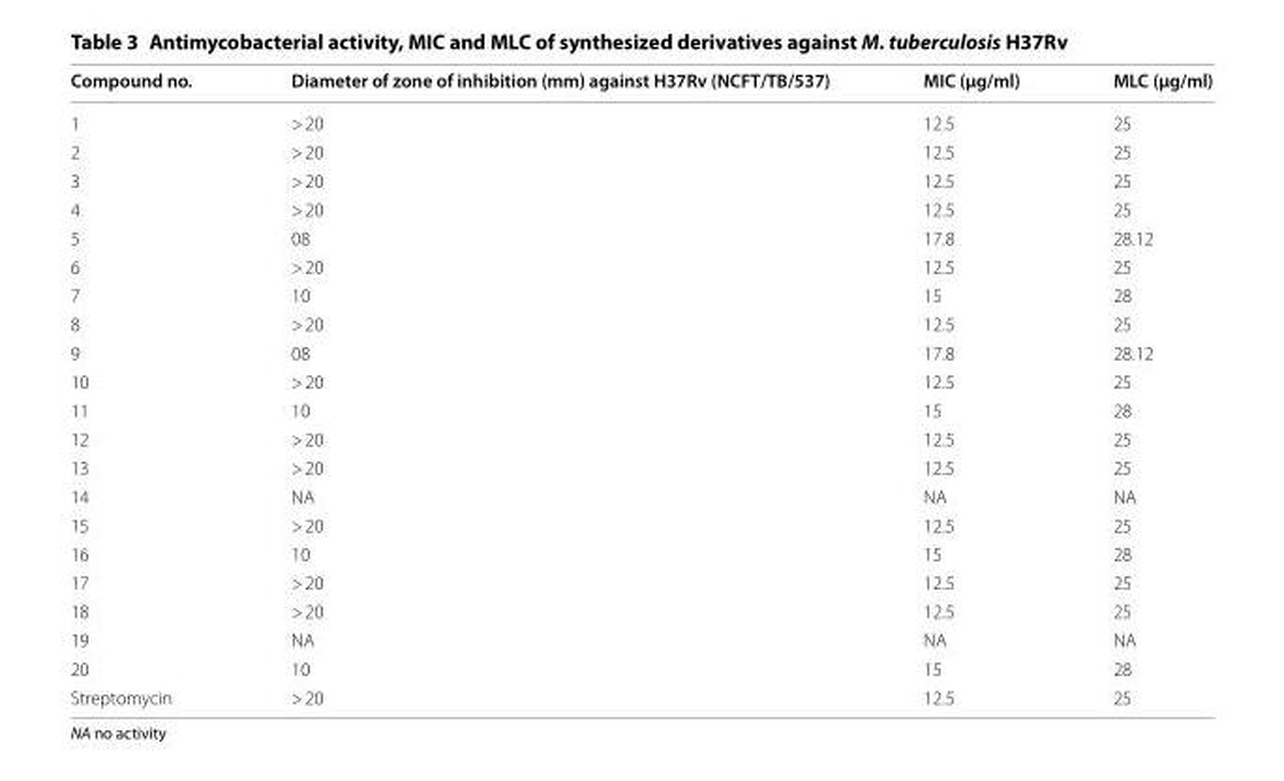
<table><thead><tr><td>Compound no.</td><td>Diameter of zone of inhibition (mm) against H37Rv (NCFT/TB/537)</td><td>MIC (µg/ml)</td><td>MLC (µg/ml)</td></tr></thead><tbody><tr><td>1</td><td>&gt; 20</td><td>12.5</td><td>25</td></tr><tr><td>2</td><td>&gt; 20</td><td>12.5</td><td>25</td></tr><tr><td>3</td><td>&gt; 20</td><td>12.5</td><td>25</td></tr><tr><td>4</td><td>&gt; 20</td><td>12.5</td><td>25</td></tr><tr><td>5</td><td>08</td><td>17.8</td><td>28.12</td></tr><tr><td>6</td><td>&gt; 20</td><td>12.5</td><td>25</td></tr><tr><td>7</td><td>10</td><td>15</td><td>28</td></tr><tr><td>8</td><td>&gt; 20</td><td>12.5</td><td>25</td></tr><tr><td>9</td><td>08</td><td>17.8</td><td>28.12</td></tr><tr><td>10</td><td>&gt; 20</td><td>12.5</td><td>25</td></tr><tr><td>11</td><td>10</td><td>15</td><td>28</td></tr><tr><td>12</td><td>&gt; 20</td><td>12.5</td><td>25</td></tr><tr><td>13</td><td>&gt; 20</td><td>12.5</td><td>25</td></tr><tr><td>14</td><td>NA</td><td>NA</td><td>NA</td></tr><tr><td>15</td><td>&gt; 20</td><td>12.5</td><td>25</td></tr><tr><td>16</td><td>10</td><td>15</td><td>28</td></tr><tr><td>17</td><td>&gt; 20</td><td>12.5</td><td>25</td></tr><tr><td>18</td><td>&gt; 20</td><td>12.5</td><td>25</td></tr><tr><td>19</td><td>NA</td><td>NA</td><td>NA</td></tr><tr><td>20</td><td>10</td><td>15</td><td>28</td></tr><tr><td>Streptomycin</td><td>&gt; 20</td><td>12.5</td><td>25</td></tr></tbody></table>